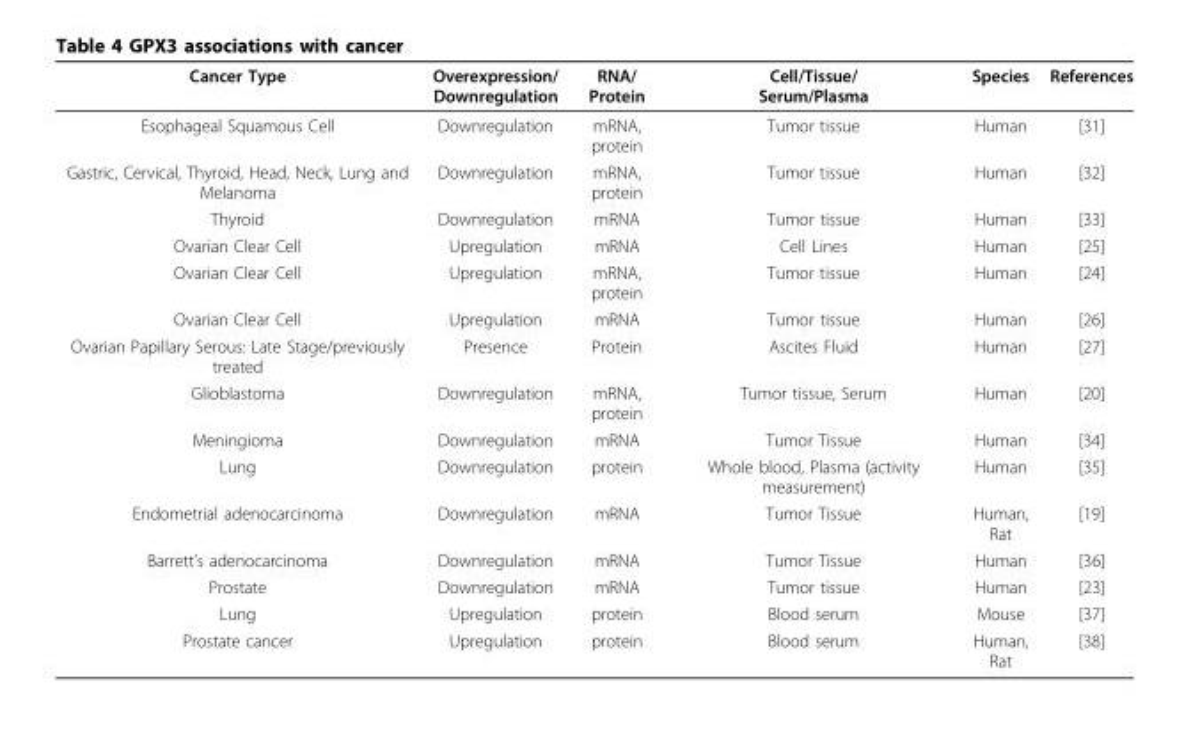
<table><thead><tr><td>Cancer Type</td><td>Overexpression/ Downregulation</td><td>RNA/ Protein</td><td>Cell/Tissue/ Serum/Plasma</td><td>Species</td><td>References</td></tr></thead><tbody><tr><td>Esophageal Squamous Cell</td><td>Downregulation</td><td>mRNA, protein</td><td>Tumor tissue</td><td>Human</td><td>[31]</td></tr><tr><td>Gastric, Cervical, Thyroid, Head, Neck, Lung and Melanoma</td><td>Downregulation</td><td>mRNA, protein</td><td>Tumor tissue</td><td>Human</td><td>[32]</td></tr><tr><td>Thyroid</td><td>Downregulation</td><td>mRNA</td><td>Tumor tissue</td><td>Human</td><td>[33]</td></tr><tr><td>Ovarian Clear Cell</td><td>Upregulation</td><td>mRNA</td><td>Cell Lines</td><td>Human</td><td>[25]</td></tr><tr><td>Ovarian Clear Cell</td><td>Upregulation</td><td>mRNA, protein</td><td>Tumor tissue</td><td>Human</td><td>[24]</td></tr><tr><td>Ovarian Clear Cell</td><td>Upregulation</td><td>mRNA</td><td>Tumor tissue</td><td>Human</td><td>[26]</td></tr><tr><td>Ovarian Papillary Serous: Late Stage/previously treated</td><td>Presence</td><td>Protein</td><td>Ascites Fluid</td><td>Human</td><td>[27]</td></tr><tr><td>Glioblastoma</td><td>Downregulation</td><td>mRNA, protein</td><td>Tumor tissue, Serum</td><td>Human</td><td>[20]</td></tr><tr><td>Meningioma</td><td>Downregulation</td><td>mRNA</td><td>Tumor Tissue</td><td>Human</td><td>[34]</td></tr><tr><td>Lung</td><td>Downregulation</td><td>protein</td><td>Whole blood, Plasma (activity measurement)</td><td>Human</td><td>[35]</td></tr><tr><td>Endometrial adenocarcinoma</td><td>Downregulation</td><td>mRNA</td><td>Tumor Tissue</td><td>Human, Rat</td><td>[19]</td></tr><tr><td>Barrett’s adenocarcinoma</td><td>Downregulation</td><td>mRNA</td><td>Tumor Tissue</td><td>Human</td><td>[36]</td></tr><tr><td>Prostate</td><td>Downregulation</td><td>mRNA</td><td>Tumor tissue</td><td>Human</td><td>[23]</td></tr><tr><td>Lung</td><td>Upregulation</td><td>protein</td><td>Blood serum</td><td>Mouse</td><td>[37]</td></tr><tr><td>Prostate cancer</td><td>Upregulation</td><td>protein</td><td>Blood serum</td><td>Human, Rat</td><td>[38]</td></tr></tbody></table>